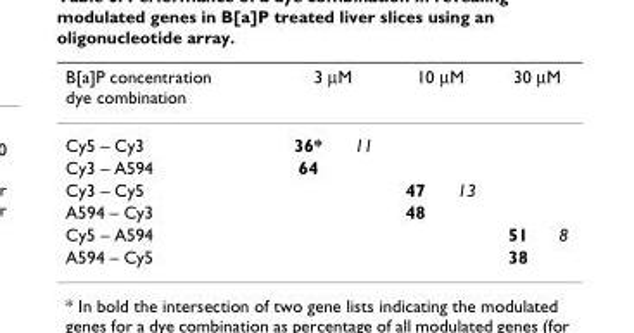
<table><thead><tr><td rowspan="2">B[a]P concentration dye combination Cy5 – Cy3</td><td colspan="2">3 µM</td><td colspan="2">10 µM</td><td colspan="2">30 µM</td></tr><tr><td>36*</td><td>11</td><td></td><td></td><td></td><td></td></tr></thead><tbody><tr><td>Cy3 – A594</td><td>64</td><td></td><td></td><td></td><td></td><td></td></tr><tr><td>Cy3 – Cy5</td><td></td><td></td><td>47</td><td>13</td><td></td><td></td></tr><tr><td>A594 – Cy3</td><td></td><td></td><td>48</td><td></td><td></td><td></td></tr><tr><td>Cy5 – A594</td><td></td><td></td><td></td><td></td><td>51</td><td>8</td></tr><tr><td>A594 – Cy5</td><td></td><td></td><td></td><td></td><td>38</td><td></td></tr></tbody></table>